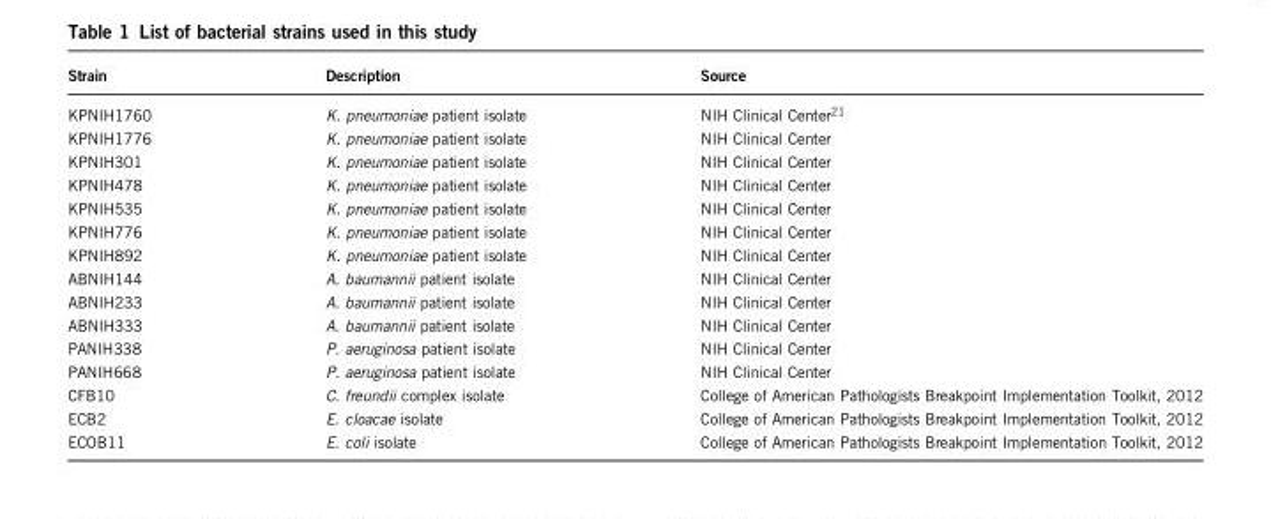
<table><thead><tr><td>Strain</td><td>Description</td><td>Source</td></tr></thead><tbody><tr><td>KPNIH1760</td><td>K. pneumoniae patient isolate</td><td>NIH Clinical Center<sup>21</sup></td></tr><tr><td>KPNIH1776</td><td>K. pneumoniae patient isolate</td><td>NIH Clinical Center</td></tr><tr><td>KPNIH301</td><td>K. pneumoniae patient isolate</td><td>NIH Clinical Center</td></tr><tr><td>KPNIH478</td><td>K. pneumoniae patient isolate</td><td>NIH Clinical Center</td></tr><tr><td>KPNIH535</td><td>K. pneumoniae patient isolate</td><td>NIH Clinical Center</td></tr><tr><td>KPNIH776</td><td>K. pneumoniae patient isolate</td><td>NIH Clinical Center</td></tr><tr><td>KPNIH892</td><td>K. pneumoniae patient isolate</td><td>NIH Clinical Center</td></tr><tr><td>ABNIH144</td><td>A. baumannii patient isolate</td><td>NIH Clinical Center</td></tr><tr><td>ABNIH233</td><td>A. baumannii patient isolate</td><td>NIH Clinical Center</td></tr><tr><td>ABNIH333</td><td>A. baumannii patient isolate</td><td>NIH Clinical Center</td></tr><tr><td>PANIH338</td><td>P. aeruginosa patient isolate</td><td>NIH Clinical Center</td></tr><tr><td>PANIH668</td><td>P. aeruginosa patient isolate</td><td>NIH Clinical Center</td></tr><tr><td>CFB10</td><td>C. freundii complex isolate</td><td>College of American Pathologists Breakpoint Implementation Toolkit, 2012</td></tr><tr><td>ECB2</td><td>E. cloacae isolate</td><td>College of American Pathologists Breakpoint Implementation Toolkit, 2012</td></tr><tr><td>ECOB11</td><td>E. coli isolate</td><td>College of American Pathologists Breakpoint Implementation Toolkit, 2012</td></tr></tbody></table>